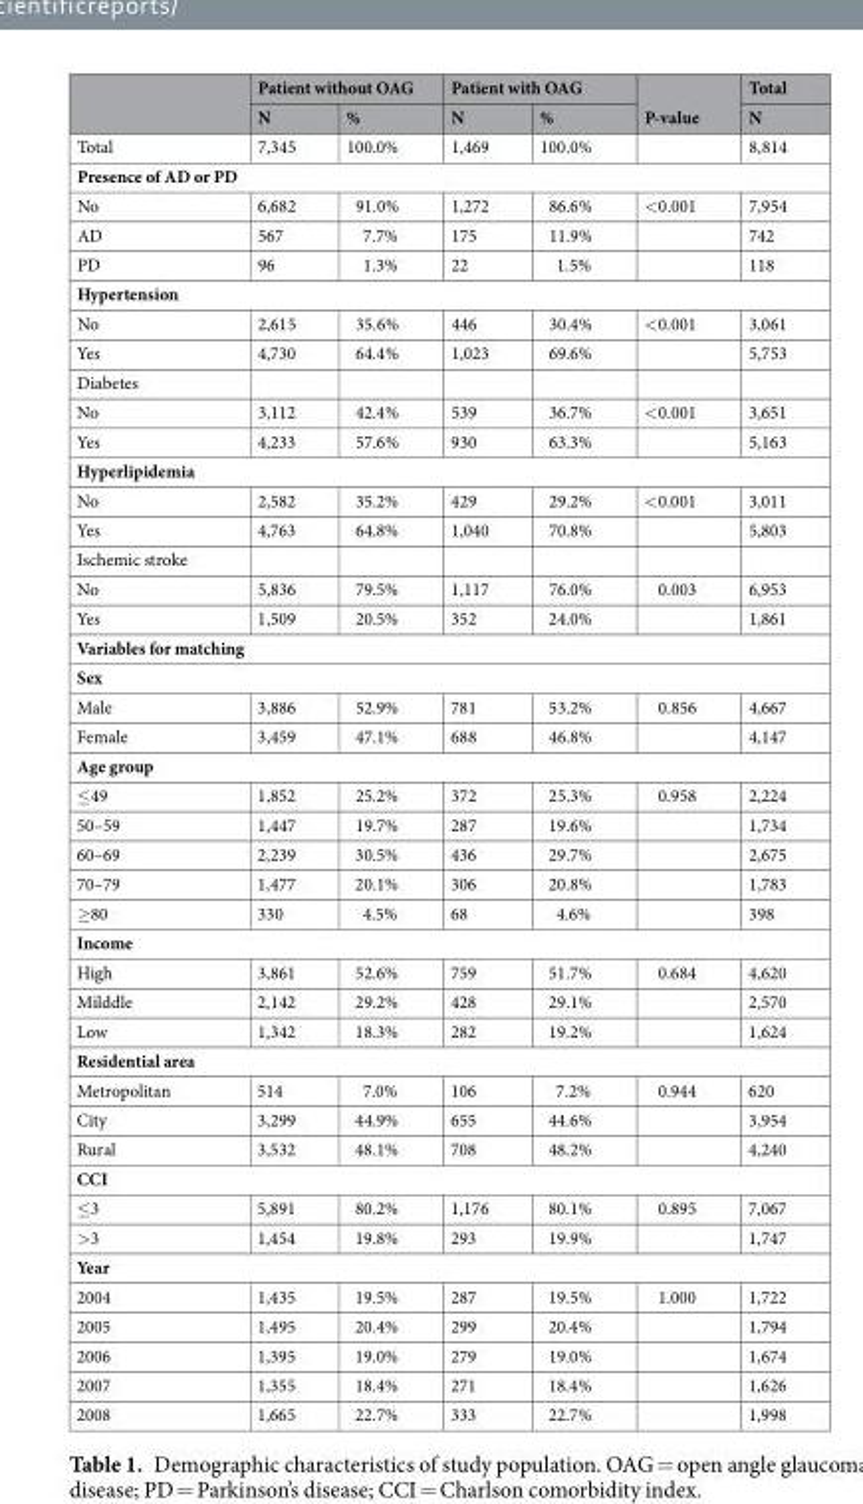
<table><thead><tr><td rowspan="2"></td><td colspan="2">Patient without OAG</td><td colspan="2">Patient with OAG</td><td rowspan="2">P-value</td><td rowspan="2">Total N</td></tr><tr><td>N</td><td>%</td><td>N</td><td>%</td></tr></thead><tbody><tr><td>Total</td><td>7,345</td><td>100.0%</td><td>1,469</td><td>100.0%</td><td></td><td>8,814</td></tr><tr><td colspan="7">Presence of AD or PD</td></tr><tr><td>No</td><td>6,682</td><td>91.0%</td><td>1,272</td><td>86.6%</td><td>&lt;0.001</td><td>7,954</td></tr><tr><td>AD</td><td>567</td><td>7.7%</td><td>175</td><td>11.9%</td><td></td><td>742</td></tr><tr><td>PD</td><td>96</td><td>1.3%</td><td>22</td><td>1.5%</td><td></td><td>118</td></tr><tr><td colspan="7">Hypertension</td></tr><tr><td>No</td><td>2,615</td><td>35.6%</td><td>446</td><td>30.4%</td><td>&lt;0.001</td><td>3,061</td></tr><tr><td>Yes</td><td>4,730</td><td>64.4%</td><td>1,023</td><td>69.6%</td><td></td><td>5,753</td></tr><tr><td colspan="7">Diabetes</td></tr><tr><td>No</td><td>3,112</td><td>42.4%</td><td>539</td><td>36.7%</td><td>&lt;0.001</td><td>3,651</td></tr><tr><td>Yes</td><td>4,233</td><td>57.6%</td><td>930</td><td>63.3%</td><td></td><td>5,163</td></tr><tr><td colspan="7">Hyperlipidemia</td></tr><tr><td>No</td><td>2,582</td><td>35.2%</td><td>429</td><td>29.2%</td><td>&lt;0.001</td><td>3,011</td></tr><tr><td>Yes</td><td>4,763</td><td>64.8%</td><td>1,040</td><td>70.8%</td><td></td><td>5,803</td></tr><tr><td colspan="7">Ischemic stroke</td></tr><tr><td>No</td><td>5,836</td><td>79.5%</td><td>1,117</td><td>76.0%</td><td>0.003</td><td>6,953</td></tr><tr><td>Yes</td><td>1,509</td><td>20.5%</td><td>352</td><td>24.0%</td><td></td><td>1,861</td></tr><tr><td colspan="7">Variables for matching</td></tr><tr><td colspan="7">Sex</td></tr><tr><td>Male</td><td>3,886</td><td>52.9%</td><td>781</td><td>53.2%</td><td>0.856</td><td>4,667</td></tr><tr><td>Female</td><td>3,459</td><td>47.1%</td><td>688</td><td>46.8%</td><td></td><td>4,147</td></tr><tr><td colspan="7">Age group</td></tr><tr><td>≤49</td><td>1,852</td><td>25.2%</td><td>372</td><td>25.3%</td><td>0.958</td><td>2,224</td></tr><tr><td>50–59</td><td>1,447</td><td>19.7%</td><td>287</td><td>19.6%</td><td></td><td>1,734</td></tr><tr><td>60–69</td><td>2,239</td><td>30.5%</td><td>436</td><td>29.7%</td><td></td><td>2,675</td></tr><tr><td>70–79</td><td>1,477</td><td>20.1%</td><td>306</td><td>20.8%</td><td></td><td>1,783</td></tr><tr><td>≥80</td><td>330</td><td>4.5%</td><td>68</td><td>4.6%</td><td></td><td>398</td></tr><tr><td colspan="7">Income</td></tr><tr><td>High</td><td>3,861</td><td>52.6%</td><td>759</td><td>51.7%</td><td>0.684</td><td>4,620</td></tr><tr><td>Milddle</td><td>2,142</td><td>29.2%</td><td>428</td><td>29.1%</td><td></td><td>2,570</td></tr><tr><td>Low</td><td>1,342</td><td>18.3%</td><td>282</td><td>19.2%</td><td></td><td>1,624</td></tr><tr><td colspan="7">Residential area</td></tr><tr><td>Metropolitan</td><td>514</td><td>7.0%</td><td>106</td><td>7.2%</td><td>0.944</td><td>620</td></tr><tr><td>City</td><td>3,299</td><td>44.9%</td><td>655</td><td>44.6%</td><td></td><td>3,954</td></tr><tr><td>Rural</td><td>3,532</td><td>48.1%</td><td>708</td><td>48.2%</td><td></td><td>4,240</td></tr><tr><td colspan="7">CCI</td></tr><tr><td>≤3</td><td>5,891</td><td>80.2%</td><td>1,176</td><td>80.1%</td><td>0.895</td><td>7,067</td></tr><tr><td>&gt;3</td><td>1,454</td><td>19.8%</td><td>293</td><td>19.9%</td><td></td><td>1,747</td></tr><tr><td colspan="7">Year</td></tr><tr><td>2004</td><td>1,435</td><td>19.5%</td><td>287</td><td>19.5%</td><td>1.000</td><td>1,722</td></tr><tr><td>2005</td><td>1,495</td><td>20.4%</td><td>299</td><td>20.4%</td><td></td><td>1,794</td></tr><tr><td>2006</td><td>1,395</td><td>19.0%</td><td>279</td><td>19.0%</td><td></td><td>1,674</td></tr><tr><td>2007</td><td>1,355</td><td>18.4%</td><td>271</td><td>18.4%</td><td></td><td>1,626</td></tr><tr><td>2008</td><td>1,665</td><td>22.7%</td><td>333</td><td>22.7%</td><td></td><td>1,998</td></tr></tbody></table>